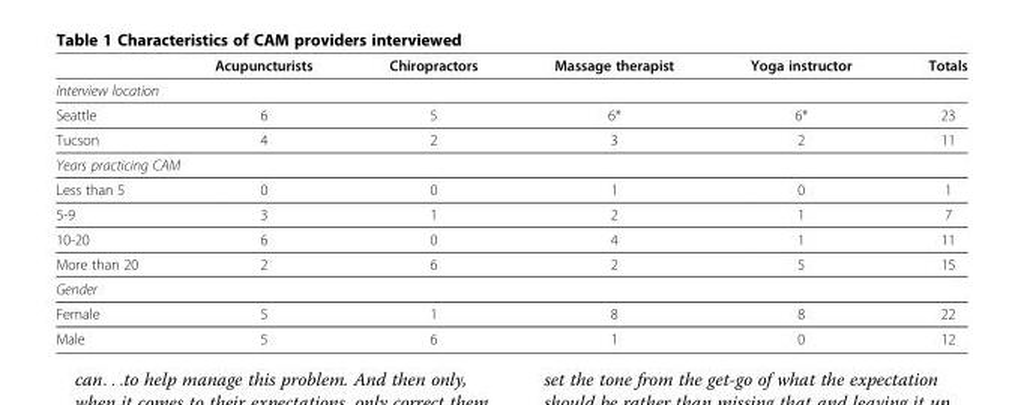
<table><thead><tr><td></td><td>Acupuncturists</td><td>Chiropractors</td><td>Massage therapist</td><td>Yoga instructor</td><td>Totals</td></tr></thead><tbody><tr><td colspan="6">Interview location</td></tr><tr><td>Seattle</td><td>6</td><td>5</td><td>6*</td><td>6*</td><td>23</td></tr><tr><td>Tucson</td><td>4</td><td>2</td><td>3</td><td>2</td><td>11</td></tr><tr><td colspan="6">Years practicing CAM</td></tr><tr><td>Less than 5</td><td>0</td><td>0</td><td>1</td><td>0</td><td>1</td></tr><tr><td>5-9</td><td>3</td><td>1</td><td>2</td><td>1</td><td>7</td></tr><tr><td>10-20</td><td>6</td><td>0</td><td>4</td><td>1</td><td>11</td></tr><tr><td>More than 20</td><td>2</td><td>6</td><td>2</td><td>5</td><td>15</td></tr><tr><td colspan="6">Gender</td></tr><tr><td>Female</td><td>5</td><td>1</td><td>8</td><td>8</td><td>22</td></tr><tr><td>Male</td><td>5</td><td>6</td><td>1</td><td>0</td><td>12</td></tr></tbody></table>